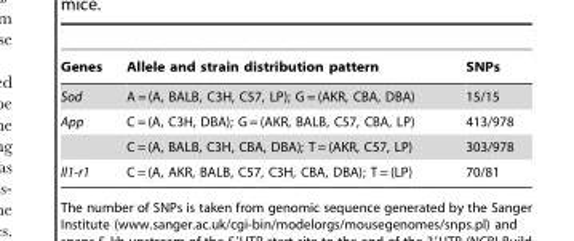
<table><thead><tr><td>Genes</td><td>Allele and strain distribution pattern</td><td>SNPs</td></tr></thead><tbody><tr><td>Sod</td><td>A = (A, BALB, C3H, C57, LP); G = (AKR, CBA, DBA)</td><td>15/15</td></tr><tr><td rowspan="2">App</td><td>C = (A, C3H, DBA); G = (AKR, BALB, C57, CBA, LP)</td><td>413/978</td></tr><tr><td>C = (A, BALB, C3H, CBA, DBA); T = (AKR, C57, LP)</td><td>303/978</td></tr><tr><td>Il1-r1</td><td>C = (A, AKR, BALB, C57, C3H, CBA, DBA); T = (LP)</td><td>70/81</td></tr></tbody></table>